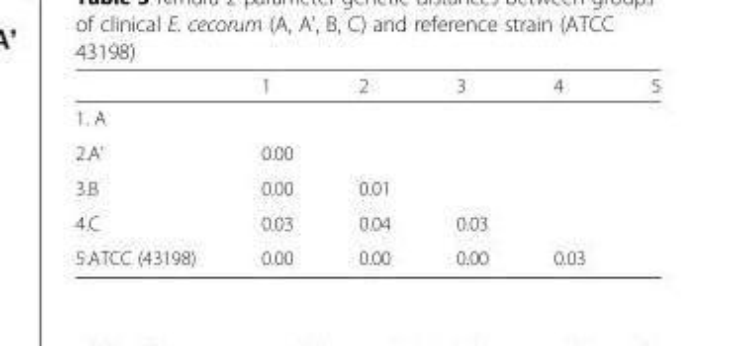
<table><thead><tr><td></td><td>1</td><td>2</td><td>3</td><td>4</td><td>5</td></tr></thead><tbody><tr><td colspan="6">1. A</td></tr><tr><td>2.A’</td><td>0.00</td><td></td><td></td><td></td><td></td></tr><tr><td>3.B</td><td>0.00</td><td>0.01</td><td></td><td></td><td></td></tr><tr><td>4.C</td><td>0.03</td><td>0.04</td><td>0.03</td><td></td><td></td></tr><tr><td>5.ATCC (43198)</td><td>0.00</td><td>0.00</td><td>0.00</td><td>0.03</td><td></td></tr></tbody></table>